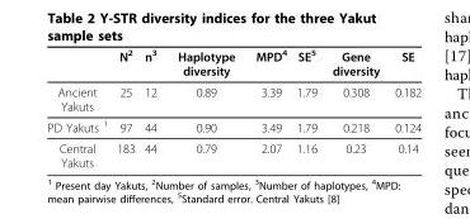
<table><thead><tr><td></td><td>N<sup>2</sup></td><td>n<sup>3</sup></td><td>Haplotype diversity</td><td>MPD<sup>4</sup></td><td>SE<sup>5</sup></td><td>Gene diversity</td><td>SE</td></tr></thead><tbody><tr><td>Ancient Yakuts</td><td>25</td><td>12</td><td>0.89</td><td>3.39</td><td>1.79</td><td>0.308</td><td>0.182</td></tr><tr><td>PD Yakuts <sup>1</sup></td><td>97</td><td>44</td><td>0.90</td><td>3.49</td><td>1.79</td><td>0.218</td><td>0.124</td></tr><tr><td>Central Yakuts</td><td>183</td><td>44</td><td>0.79</td><td>2.07</td><td>1.16</td><td>0.23</td><td>0.14</td></tr></tbody></table>